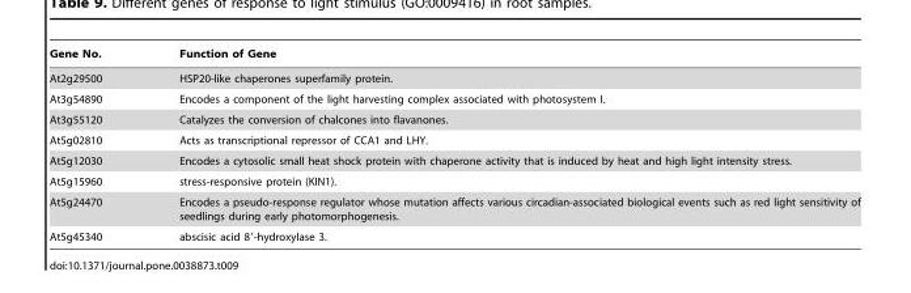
<table><thead><tr><td>Gene No.</td><td>Function of Gene</td></tr></thead><tbody><tr><td>At2g29500</td><td>HSP20-like chaperones superfamily protein.</td></tr><tr><td>At3g54890</td><td>Encodes a component of the light harvesting complex associated with photosystem I.</td></tr><tr><td>At3g55120</td><td>Catalyzes the conversion of chalcones into flavanones.</td></tr><tr><td>At5g02810</td><td>Acts as transcriptional repressor of CCA1 and LHY.</td></tr><tr><td>At5g12030</td><td>Encodes a cytosolic small heat shock protein with chaperone activity that is induced by heat and high light intensity stress.</td></tr><tr><td>At5g15960</td><td>stress-responsive protein (KIN1).</td></tr><tr><td>At5g24470</td><td>Encodes a pseudo-response regulator whose mutation affects various circadian-associated biological events such as red light sensitivity of seedlings during early photomorphogenesis.</td></tr><tr><td>At5g45340</td><td>abscisic acid 8′-hydroxylase 3.</td></tr></tbody></table>